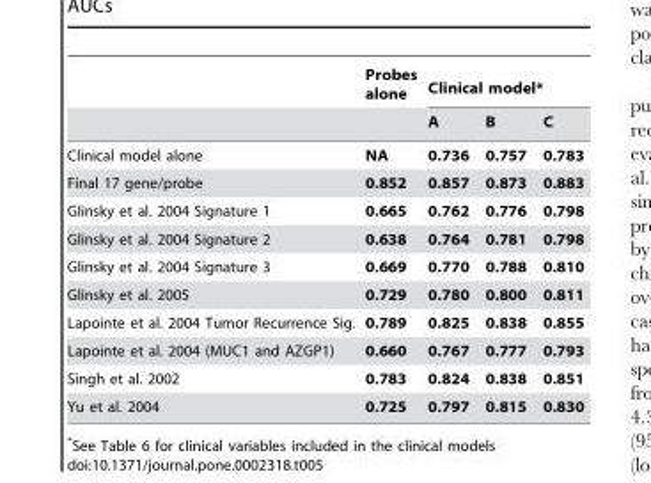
<table><thead><tr><td rowspan="2"></td><td rowspan="2">Probes alone</td><td colspan="3">Clinical model*</td></tr><tr><td>A</td><td>B</td><td>C</td></tr></thead><tbody><tr><td>Clinical model alone</td><td>NA</td><td>0.736</td><td>0.757</td><td>0.783</td></tr><tr><td>Final 17 gene/probe</td><td>0.852</td><td>0.857</td><td>0.873</td><td>0.883</td></tr><tr><td>Glinsky et al. 2004 Signature 1</td><td>0.665</td><td>0.762</td><td>0.776</td><td>0.798</td></tr><tr><td>Glinsky et al. 2004 Signature 2</td><td>0.638</td><td>0.764</td><td>0.781</td><td>0.798</td></tr><tr><td>Glinsky et al. 2004 Signature 3</td><td>0.669</td><td>0.770</td><td>0.788</td><td>0.810</td></tr><tr><td>Glinsky et al. 2005</td><td>0.729</td><td>0.780</td><td>0.800</td><td>0.811</td></tr><tr><td>Lapointe et al. 2004 Tumor Recurrence Sig.</td><td>0.789</td><td>0.825</td><td>0.838</td><td>0.855</td></tr><tr><td>Lapointe et al. 2004 (MUC1 and AZGP1)</td><td>0.660</td><td>0.767</td><td>0.777</td><td>0.793</td></tr><tr><td>Singh et al. 2002</td><td>0.783</td><td>0.824</td><td>0.838</td><td>0.851</td></tr><tr><td>Yu et al. 2004</td><td>0.725</td><td>0.797</td><td>0.815</td><td>0.830</td></tr></tbody></table>